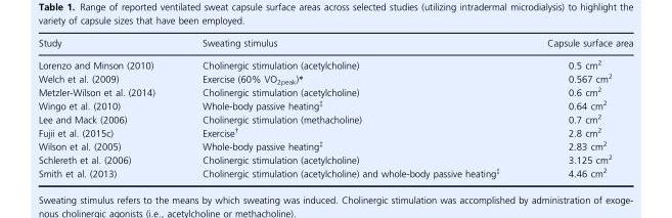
<table><thead><tr><td>Study</td><td>Sweating stimulus</td><td>Capsule surface area</td></tr></thead><tbody><tr><td>Lorenzo and Minson (2010)</td><td>Cholinergic stimulation (acetylcholine)</td><td>0.5 cm<sup>2</sup></td></tr><tr><td>Welch et al. (2009)</td><td>Exercise (60% VO<sub>2peak</sub>)*</td><td>0.567 cm<sup>2</sup></td></tr><tr><td>Metzler-Wilson et al. (2014)</td><td>Cholinergic stimulation (acetylcholine)</td><td>0.6 cm<sup>2</sup></td></tr><tr><td>Wingo et al. (2010)</td><td>Whole-body passive heating‡</td><td>0.64 cm<sup>2</sup></td></tr><tr><td>Lee and Mack (2006)</td><td>Cholinergic stimulation (methacholine)</td><td>0.7 cm<sup>2</sup></td></tr><tr><td>Fujii et al. (2015c)</td><td>Exercise†</td><td>2.8 cm<sup>2</sup></td></tr><tr><td>Wilson et al. (2005)</td><td>Whole-body passive heating‡</td><td>2.83 cm<sup>2</sup></td></tr><tr><td>Schlereth et al. (2006)</td><td>Cholinergic stimulation (acetylcholine)</td><td>3.125 cm<sup>2</sup></td></tr><tr><td>Smith et al. (2013)</td><td>Cholinergic stimulation (acetylcholine) and whole-body passive heating‡</td><td>4.46 cm<sup>2</sup></td></tr></tbody></table>